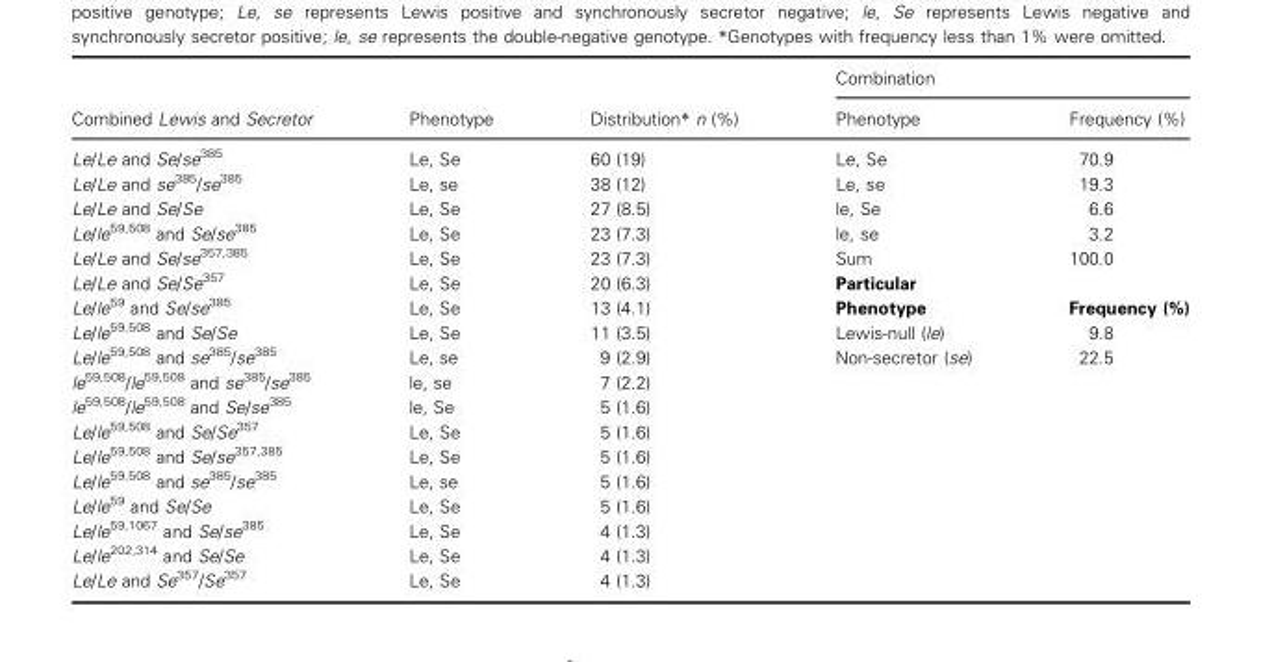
<table><thead><tr><td rowspan="2">Combined Lewis and Secretor</td><td rowspan="2">Phenotype</td><td rowspan="2">Distribution* n (%)</td><td colspan="2">Combination</td></tr><tr><td>Phenotype</td><td>Frequency (%)</td></tr></thead><tbody><tr><td>Le/Le and Se/se<sup>385</sup></td><td>Le, Se</td><td>60 (19)</td><td>Le, Se</td><td>70.9</td></tr><tr><td>Le/Le and se<sup>385</sup>/se<sup>385</sup></td><td>Le, se</td><td>38 (12)</td><td>Le, se</td><td>19.3</td></tr><tr><td>Le/Le and Se/Se</td><td>Le, Se</td><td>27 (8.5)</td><td>le, Se</td><td>6.6</td></tr><tr><td>Le/le<sup>59,508</sup> and Se/se<sup>385</sup></td><td>Le, Se</td><td>23 (7.3)</td><td>le, se</td><td>3.2</td></tr><tr><td>Le/Le and Se/se<sup>357,385</sup></td><td>Le, Se</td><td>23 (7.3)</td><td>Sum</td><td>100.0</td></tr><tr><td>Le/Le and Se/Se<sup>357</sup></td><td>Le, Se</td><td>20 (6.3)</td><td colspan="2">Particular</td></tr><tr><td>Le/le<sup>59</sup> and Se/se<sup>385</sup></td><td>Le, Se</td><td>13 (4.1)</td><td>Phenotype</td><td>Frequency (%)</td></tr><tr><td>Le/le<sup>59,508</sup> and Se/Se</td><td>Le, Se</td><td>11 (3.5)</td><td>Lewis-null (le)</td><td>9.8</td></tr><tr><td>Le/le<sup>59,508</sup> and se<sup>385</sup>/se<sup>385</sup></td><td>Le, se</td><td>9 (2.9)</td><td>Non-secretor (se)</td><td>22.5</td></tr><tr><td>le<sup>59,508</sup>/le<sup>59,508</sup> and se<sup>385</sup>/se<sup>385</sup></td><td>le, se</td><td>7 (2.2)</td><td></td><td></td></tr><tr><td>le<sup>59,508</sup>/le<sup>59,508</sup> and Se/se<sup>385</sup></td><td>le, Se</td><td>5 (1.6)</td><td></td><td></td></tr><tr><td>Le/le<sup>59,508</sup> and Se/Se<sup>357</sup></td><td>Le, Se</td><td>5 (1.6)</td><td></td><td></td></tr><tr><td>Le/le<sup>59,508</sup> and Se/se<sup>357,385</sup></td><td>Le, Se</td><td>5 (1.6)</td><td></td><td></td></tr><tr><td>Le/le<sup>59,508</sup> and se<sup>385</sup>/se<sup>385</sup></td><td>Le, se</td><td>5 (1.6)</td><td></td><td></td></tr><tr><td>Le/le<sup>59</sup> and Se/Se</td><td>Le, Se</td><td>5 (1.6)</td><td></td><td></td></tr><tr><td>Le/le<sup>59,1067</sup> and Se/se<sup>385</sup></td><td>Le, Se</td><td>4 (1.3)</td><td></td><td></td></tr><tr><td>Le/le<sup>202,314</sup> and Se/Se</td><td>Le, Se</td><td>4 (1.3)</td><td></td><td></td></tr><tr><td>Le/Le and Se<sup>357</sup>/Se<sup>357</sup></td><td>Le, Se</td><td>4 (1.3)</td><td></td><td></td></tr></tbody></table>